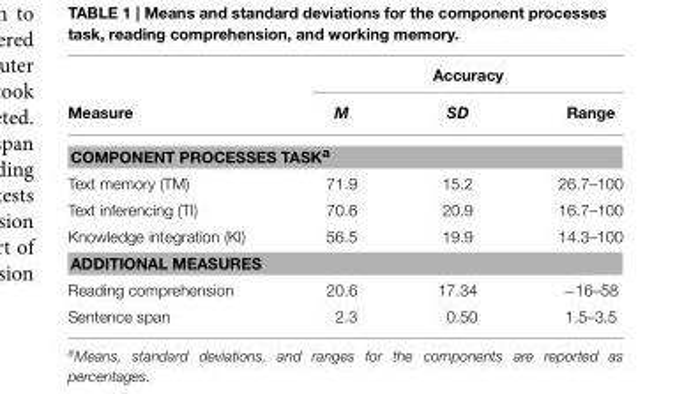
<table><thead><tr><td rowspan="2">Measure</td><td colspan="3">Accuracy</td></tr><tr><td>M</td><td>SD</td><td>Range</td></tr></thead><tbody><tr><td colspan="4">COMPONENT PROCESSES TASK<sup>a</sup></td></tr><tr><td>Text memory (TM)</td><td>71.9</td><td>15.2</td><td>26.7–100</td></tr><tr><td>Text inferencing (TI)</td><td>70.6</td><td>20.9</td><td>16.7–100</td></tr><tr><td>Knowledge integration (KI)</td><td>56.5</td><td>19.9</td><td>14.3–100</td></tr><tr><td colspan="4">ADDITIONAL MEASURES</td></tr><tr><td>Reading comprehension</td><td>20.6</td><td>17.34</td><td>−16–58</td></tr><tr><td>Sentence span</td><td>2.3</td><td>0.50</td><td>1.5–3.5</td></tr></tbody></table>